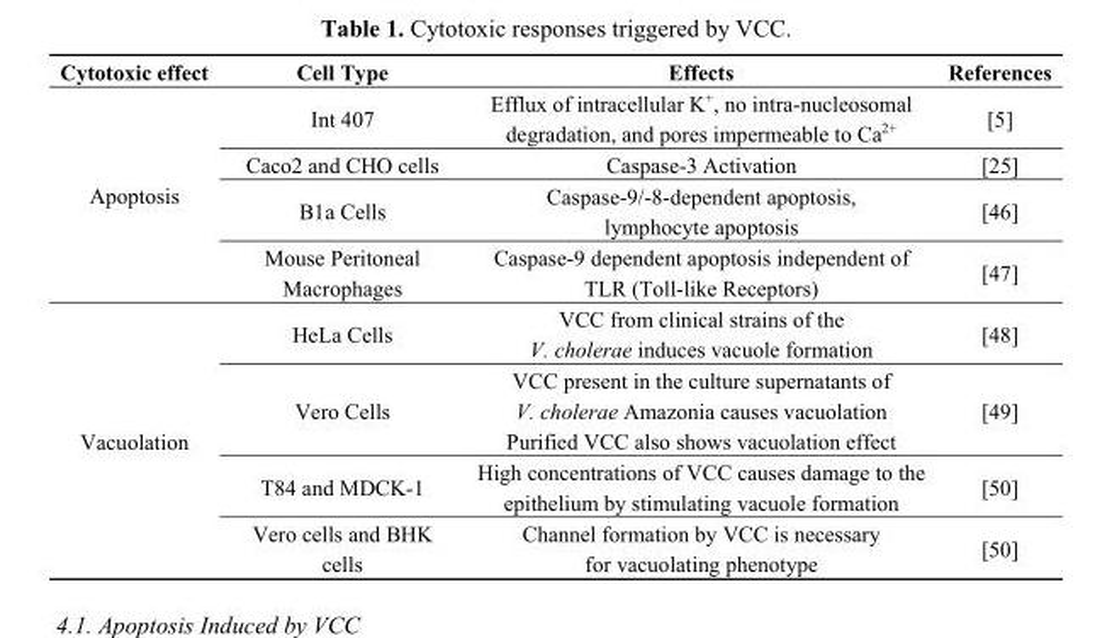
<table><thead><tr><td>Cytotoxic effect</td><td>Cell Type</td><td>Effects</td><td>References</td></tr></thead><tbody><tr><td rowspan="4">Apoptosis</td><td>Int 407</td><td>Efflux of intracellular K<sup>+</sup>, no intra-nucleosomal degradation, and pores impermeable to Ca<sup>2+</sup></td><td>[5]</td></tr><tr><td>Caco2 and CHO cells</td><td>Caspase-3 Activation</td><td>[25]</td></tr><tr><td>B1a Cells</td><td>Caspase-9/-8-dependent apoptosis, lymphocyte apoptosis</td><td>[46]</td></tr><tr><td>Mouse Peritoneal Macrophages</td><td>Caspase-9 dependent apoptosis independent of TLR (Toll-like Receptors)</td><td>[47]</td></tr><tr><td rowspan="4">Vacuolation</td><td>HeLa Cells</td><td>VCC from clinical strains of the V. cholerae induces vacuole formation</td><td>[48]</td></tr><tr><td>Vero Cells</td><td>VCC present in the culture supernatants of V. cholerae Amazonia causes vacuolation Purified VCC also shows vacuolation effect</td><td>[49]</td></tr><tr><td>T84 and MDCK-1</td><td>High concentrations of VCC causes damage to the epithelium by stimulating vacuole formation</td><td>[50]</td></tr><tr><td>Vero cells and BHK cells</td><td>Channel formation by VCC is necessary for vacuolating phenotype</td><td>[50]</td></tr></tbody></table>